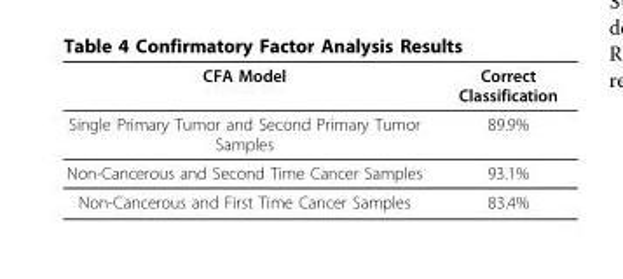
<table><thead><tr><td>CFA Model</td><td>Correct Classification</td></tr></thead><tbody><tr><td>Single Primary Tumor and Second Primary Tumor Samples</td><td>89.9%</td></tr><tr><td>Non-Cancerous and Second Time Cancer Samples</td><td>93.1%</td></tr><tr><td>Non-Cancerous and First Time Cancer Samples</td><td>83.4%</td></tr></tbody></table>